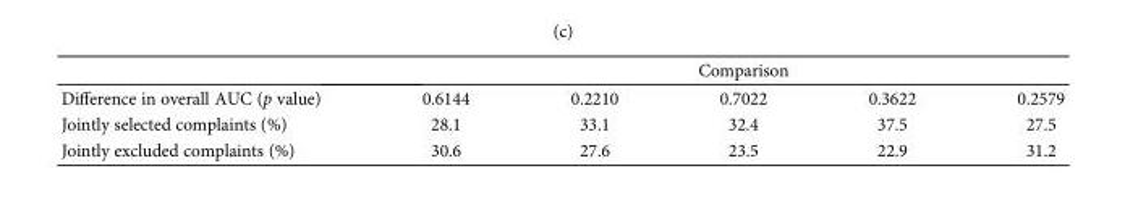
<table><thead><tr><td rowspan="2">Difference in overall AUC (p value)</td><td colspan="5">Comparison</td></tr><tr><td>0.6144</td><td>0.2210</td><td>0.7022</td><td>0.3622</td><td>0.2579</td></tr></thead><tbody><tr><td>Jointly selected complaints (%)</td><td>28.1</td><td>33.1</td><td>32.4</td><td>37.5</td><td>27.5</td></tr><tr><td>Jointly excluded complaints (%)</td><td>30.6</td><td>27.6</td><td>23.5</td><td>22.9</td><td>31.2</td></tr></tbody></table>